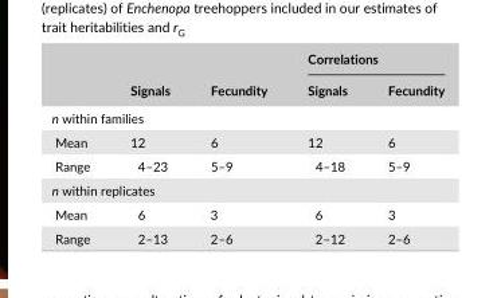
<table><thead><tr><td rowspan="2"></td><td rowspan="2">Signals</td><td rowspan="2">Fecundity</td><td colspan="2">Correlations</td></tr><tr><td>Signals</td><td>Fecundity</td></tr></thead><tbody><tr><td colspan="5">n within families</td></tr><tr><td>Mean</td><td>12</td><td>6</td><td>12</td><td>6</td></tr><tr><td>Range</td><td>4–23</td><td>5–9</td><td>4–18</td><td>5–9</td></tr><tr><td colspan="5">n within replicates</td></tr><tr><td>Mean</td><td>6</td><td>3</td><td>6</td><td>3</td></tr><tr><td>Range</td><td>2–13</td><td>2–6</td><td>2–12</td><td>2–6</td></tr></tbody></table>